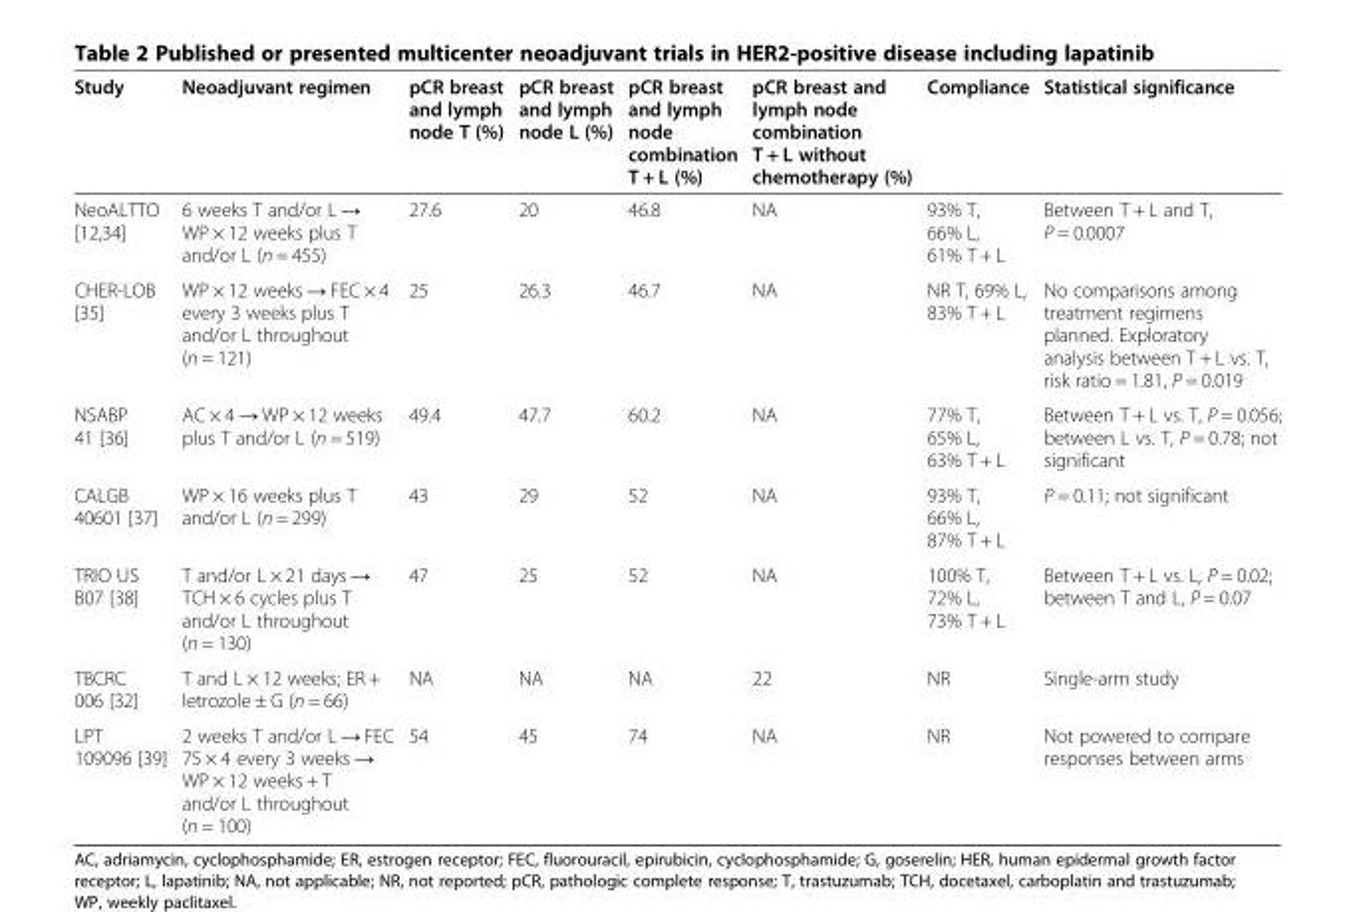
<table><thead><tr><td>Study</td><td>Neoadjuvant regimen</td><td>pCR breast and lymph node T (%)</td><td>pCR breast and lymph node L (%)</td><td>pCR breast and lymph node combination T + L (%)</td><td>pCR breast and lymph node combination T + L without chemotherapy (%)</td><td>Compliance</td><td>Statistical significance</td></tr></thead><tbody><tr><td>NeoALTTO [12,34]</td><td>6 weeks T and/or L → WP × 12 weeks plus T and/or L (n = 455)</td><td>27.6</td><td>20</td><td>46.8</td><td>NA</td><td>93% T, 66% L, 61% T + L</td><td>Between T + L and T, P = 0.0007</td></tr><tr><td>CHER-LOB [35]</td><td>WP × 12 weeks → FEC × 4 every 3 weeks plus T and/or L throughout (n = 121)</td><td>25</td><td>26.3</td><td>46.7</td><td>NA</td><td>NR T, 69% L, 83% T + L</td><td>No comparisons among treatment regimens planned. Exploratory analysis between T + L vs. T, risk ratio = 1.81, P = 0.019</td></tr><tr><td>NSABP 41 [36]</td><td>AC × 4 → WP × 12 weeks plus T and/or L (n = 519)</td><td>49.4</td><td>47.7</td><td>60.2</td><td>NA</td><td>77% T, 65% L, 63% T + L</td><td>Between T + L vs. T, P = 0.056; between L vs. T, P = 0.78; not significant</td></tr><tr><td>CALGB 40601 [37]</td><td>WP × 16 weeks plus T and/or L (n = 299)</td><td>43</td><td>29</td><td>52</td><td>NA</td><td>93% T, 66% L, 87% T + L</td><td>P = 0.11; not significant</td></tr><tr><td>TRIO US B07 [38]</td><td>T and/or L × 21 days → TCH × 6 cycles plus T and/or L throughout (n = 130)</td><td>47</td><td>25</td><td>52</td><td>NA</td><td>100% T, 72% L, 73% T + L</td><td>Between T + L vs. L, P = 0.02; between T and L, P = 0.07</td></tr><tr><td>TBCRC 006 [32]</td><td>T and L × 12 weeks; ER + letrozole ± G (n = 66)</td><td>NA</td><td>NA</td><td>NA</td><td>22</td><td>NR</td><td>Single-arm study</td></tr><tr><td>LPT 109096 [39]</td><td>2 weeks T and/or L → FEC 75 × 4 every 3 weeks → WP × 12 weeks + T and/or L throughout (n = 100)</td><td>54</td><td>45</td><td>74</td><td>NA</td><td>NR</td><td>Not powered to compare responses between arms</td></tr></tbody></table>